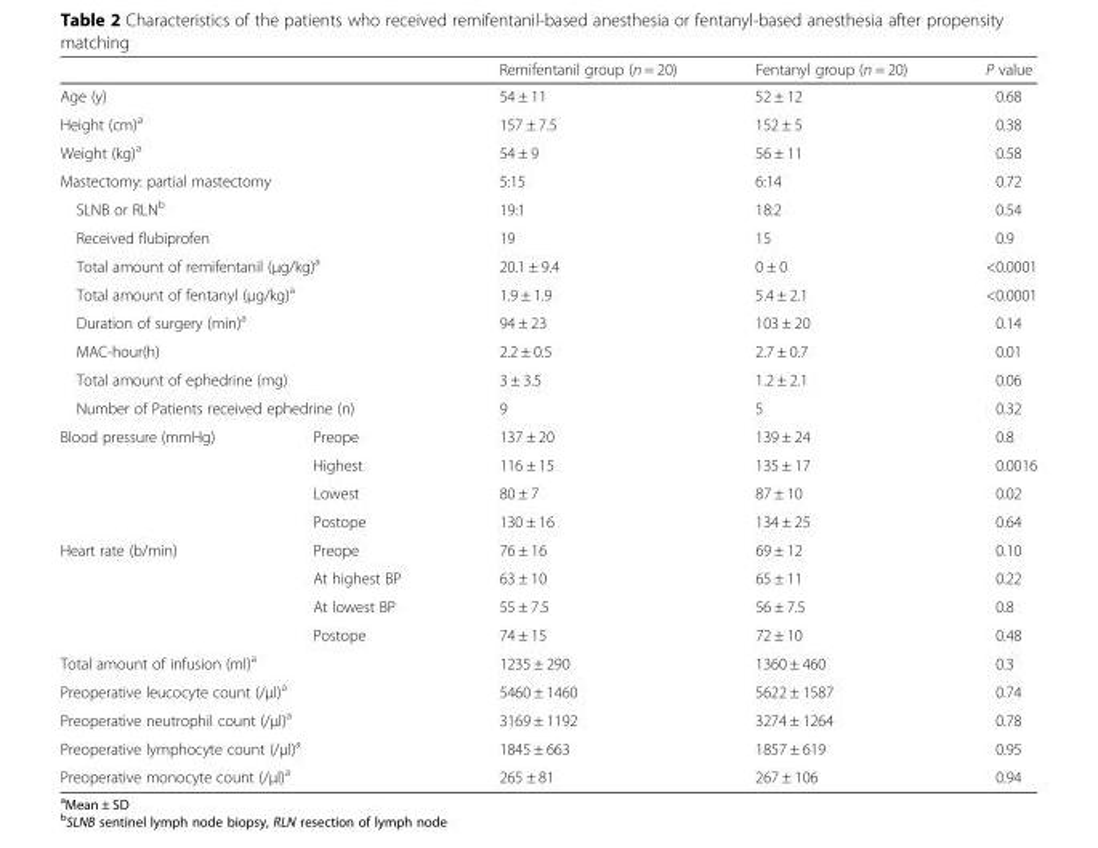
<table><thead><tr><td></td><td></td><td>Remifentanil group (n = 20)</td><td>Fentanyl group (n = 20)</td><td>P value</td></tr></thead><tbody><tr><td colspan="2">Age (y)</td><td>54 ± 11</td><td>52 ± 12</td><td>0.68</td></tr><tr><td colspan="2">Height (cm)<sup>a</sup></td><td>157 ± 7.5</td><td>152 ± 5</td><td>0.38</td></tr><tr><td colspan="2">Weight (kg)<sup>a</sup></td><td>54 ± 9</td><td>56 ± 11</td><td>0.58</td></tr><tr><td colspan="2">Mastectomy: partial mastectomy</td><td>5:15</td><td>6:14</td><td>0.72</td></tr><tr><td colspan="2">SLNB or RLN<sup>b</sup></td><td>19:1</td><td>18:2</td><td>0.54</td></tr><tr><td colspan="2">Received flubiprofen</td><td>19</td><td>15</td><td>0.9</td></tr><tr><td colspan="2">Total amount of remifentanil (μg/kg)<sup>a</sup></td><td>20.1 ± 9.4</td><td>0 ± 0</td><td>&lt;0.0001</td></tr><tr><td colspan="2">Total amount of fentanyl (μg/kg)<sup>a</sup></td><td>1.9 ± 1.9</td><td>5.4 ± 2.1</td><td>&lt;0.0001</td></tr><tr><td colspan="2">Duration of surgery (min)<sup>a</sup></td><td>94 ± 23</td><td>103 ± 20</td><td>0.14</td></tr><tr><td colspan="2">MAC-hour(h)</td><td>2.2 ± 0.5</td><td>2.7 ± 0.7</td><td>0.01</td></tr><tr><td colspan="2">Total amount of ephedrine (mg)</td><td>3 ± 3.5</td><td>1.2 ± 2.1</td><td>0.06</td></tr><tr><td colspan="2">Number of Patients received ephedrine (n)</td><td>9</td><td>5</td><td>0.32</td></tr><tr><td rowspan="4">Blood pressure (mmHg)</td><td>Preope</td><td>137 ± 20</td><td>139 ± 24</td><td>0.8</td></tr><tr><td>Highest</td><td>116 ± 15</td><td>135 ± 17</td><td>0.0016</td></tr><tr><td>Lowest</td><td>80 ± 7</td><td>87 ± 10</td><td>0.02</td></tr><tr><td>Postope</td><td>130 ± 16</td><td>134 ± 25</td><td>0.64</td></tr><tr><td rowspan="4">Heart rate (b/min)</td><td>Preope</td><td>76 ± 16</td><td>69 ± 12</td><td>0.10</td></tr><tr><td>At highest BP</td><td>63 ± 10</td><td>65 ± 11</td><td>0.22</td></tr><tr><td>At lowest BP</td><td>55 ± 7.5</td><td>56 ± 7.5</td><td>0.8</td></tr><tr><td>Postope</td><td>74 ± 15</td><td>72 ± 10</td><td>0.48</td></tr><tr><td colspan="2">Total amount of infusion (ml)<sup>a</sup></td><td>1235 ± 290</td><td>1360 ± 460</td><td>0.3</td></tr><tr><td colspan="2">Preoperative leucocyte count (/μl)<sup>a</sup></td><td>5460 ± 1460</td><td>5622 ± 1587</td><td>0.74</td></tr><tr><td colspan="2">Preoperative neutrophil count (/μl)<sup>a</sup></td><td>3169 ± 1192</td><td>3274 ± 1264</td><td>0.78</td></tr><tr><td colspan="2">Preoperative lymphocyte count (/μl)<sup>a</sup></td><td>1845 ± 663</td><td>1857 ± 619</td><td>0.95</td></tr><tr><td colspan="2">Preoperative monocyte count (/μl)<sup>a</sup></td><td>265 ± 81</td><td>267 ± 106</td><td>0.94</td></tr></tbody></table>